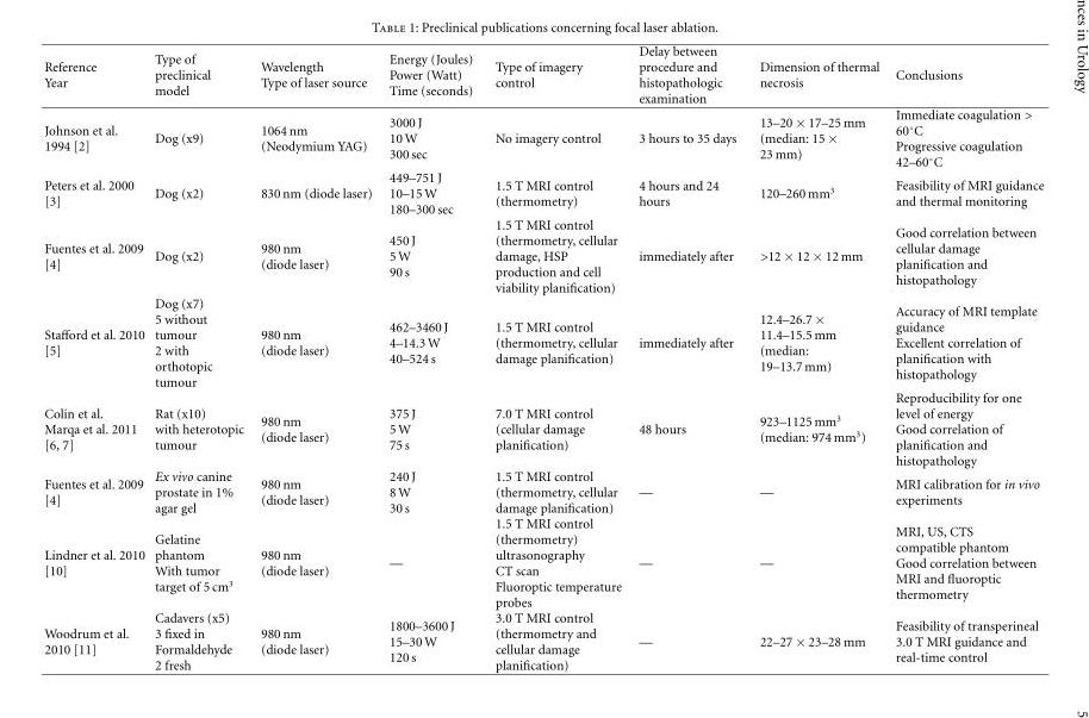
<table><thead><tr><td>Reference Year</td><td>Type of preclinical model</td><td>Wavelength Type of laser source</td><td>Energy (Joules) Power (Watt) Time (seconds)</td><td>Type of imagery control</td><td>Delay between procedure and histopathologic examination</td><td>Dimension of thermal necrosis</td><td>Conclusions</td></tr></thead><tbody><tr><td>Johnson et al. 1994 [2]</td><td>Dog (x9)</td><td>1064 nm (Neodymium YAG)</td><td>3000 J 10 W 300 sec</td><td>No imagery control</td><td>3 hours to 35 days</td><td>13–20 × 17–25 mm (median: 15 × 23 mm)</td><td>Immediate coagulation &gt; 60◦C Progressive coagulation 42–60◦C</td></tr><tr><td>Peters et al. 2000 [3]</td><td>Dog (x2)</td><td>830 nm (diode laser)</td><td>449–751 J 10–15 W 180–300 sec</td><td>1.5 T MRI control (thermometry)</td><td>4 hours and 24 hours</td><td>120–260 mm<sup>3</sup></td><td>Feasibility of MRI guidance and thermal monitoring</td></tr><tr><td>Fuentes et al. 2009 [4]</td><td>Dog (x2)</td><td>980 nm (diode laser)</td><td>450 J 5 W 90 s</td><td>1.5 T MRI control (thermometry, cellular damage, HSP production and cell viability planification)</td><td>immediately after</td><td>&gt;12 × 12 × 12 mm</td><td>Good correlation between cellular damage planification and histopathology</td></tr><tr><td>Stafford et al. 2010 [5]</td><td>Dog (x7) 5 without tumour 2 with orthotopic tumour</td><td>980 nm (diode laser)</td><td>462–3460 J 4–14.3 W 40–524 s</td><td>1.5 T MRI control (thermometry, cellular damage planification)</td><td>immediately after</td><td>12.4–26.7 × 11.4–15.5 mm (median: 19–13.7 mm)</td><td>Accuracy of MRI template guidance Excellent correlation of planification with histopathology</td></tr><tr><td>Colin et al. Marqa et al. 2011 [6, 7]</td><td>Rat (x10) with heterotopic tumour</td><td>980 nm (diode laser)</td><td>375 J 5 W 75 s</td><td>7.0 T MRI control (cellular damage planification)</td><td>48 hours</td><td>923–1125 mm<sup>3</sup> (median: 974 mm<sup>3</sup>)</td><td>Reproducibility for one level of energy Good correlation of planification and histopathology</td></tr><tr><td>Fuentes et al. 2009 [4]</td><td>Ex vivo canine prostate in 1% agar gel</td><td>980 nm (diode laser)</td><td>240 J 8 W 30 s</td><td>1.5 T MRI control (thermometry, cellular damage planification)</td><td>—</td><td>—</td><td>MRI calibration for in vivo experiments</td></tr><tr><td>Lindner et al. 2010 [10]</td><td>Gelatine phantom With tumor target of 5 cm<sup>3</sup></td><td>980 nm (diode laser)</td><td>—</td><td>1.5 T MRI control (thermometry) ultrasonography CT scan Fluoroptic temperature probes</td><td>—</td><td>—</td><td>MRI, US, CTS compatible phantom Good correlation between MRI and fluoroptic thermometry</td></tr><tr><td>Woodrum et al. 2010 [11]</td><td>Cadavers (x5) 3 fixed in Formaldehyde 2 fresh</td><td>980 nm (diode laser)</td><td>1800–3600 J 15–30 W 120 s</td><td>3.0 T MRI control (thermometry and cellular damage planification)</td><td>—</td><td>22–27 × 23–28 mm</td><td>Feasibility of transperineal 3.0 T MRI guidance and real-time control</td></tr></tbody></table>